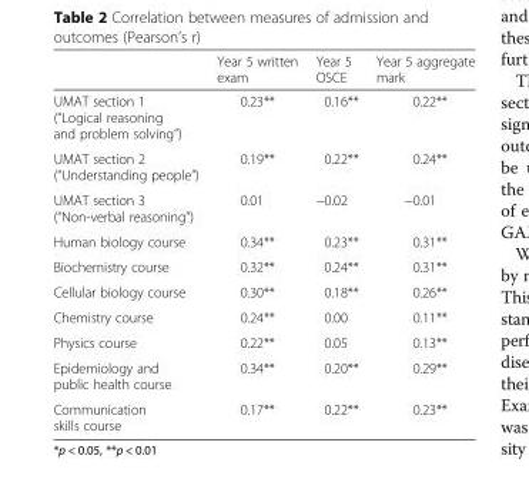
<table><thead><tr><td></td><td>Year 5 written exam</td><td>Year 5 OSCE</td><td>Year 5 aggregate mark</td></tr></thead><tbody><tr><td>UMAT section 1 (“Logical reasoning and problem solving”)</td><td>0.23**</td><td>0.16**</td><td>0.22**</td></tr><tr><td>UMAT section 2 (“Understanding people”)</td><td>0.19**</td><td>0.22**</td><td>0.24**</td></tr><tr><td>UMAT section 3 (“Non-verbal reasoning”)</td><td>0.01</td><td>−0.02</td><td>−0.01</td></tr><tr><td>Human biology course</td><td>0.34**</td><td>0.23**</td><td>0.31**</td></tr><tr><td>Biochemistry course</td><td>0.32**</td><td>0.24**</td><td>0.31**</td></tr><tr><td>Cellular biology course</td><td>0.30**</td><td>0.18**</td><td>0.26**</td></tr><tr><td>Chemistry course</td><td>0.24**</td><td>0.00</td><td>0.11**</td></tr><tr><td>Physics course</td><td>0.22**</td><td>0.05</td><td>0.13**</td></tr><tr><td>Epidemiology and public health course</td><td>0.34**</td><td>0.20**</td><td>0.29**</td></tr><tr><td>Communication skills course</td><td>0.17**</td><td>0.22**</td><td>0.23**</td></tr></tbody></table>